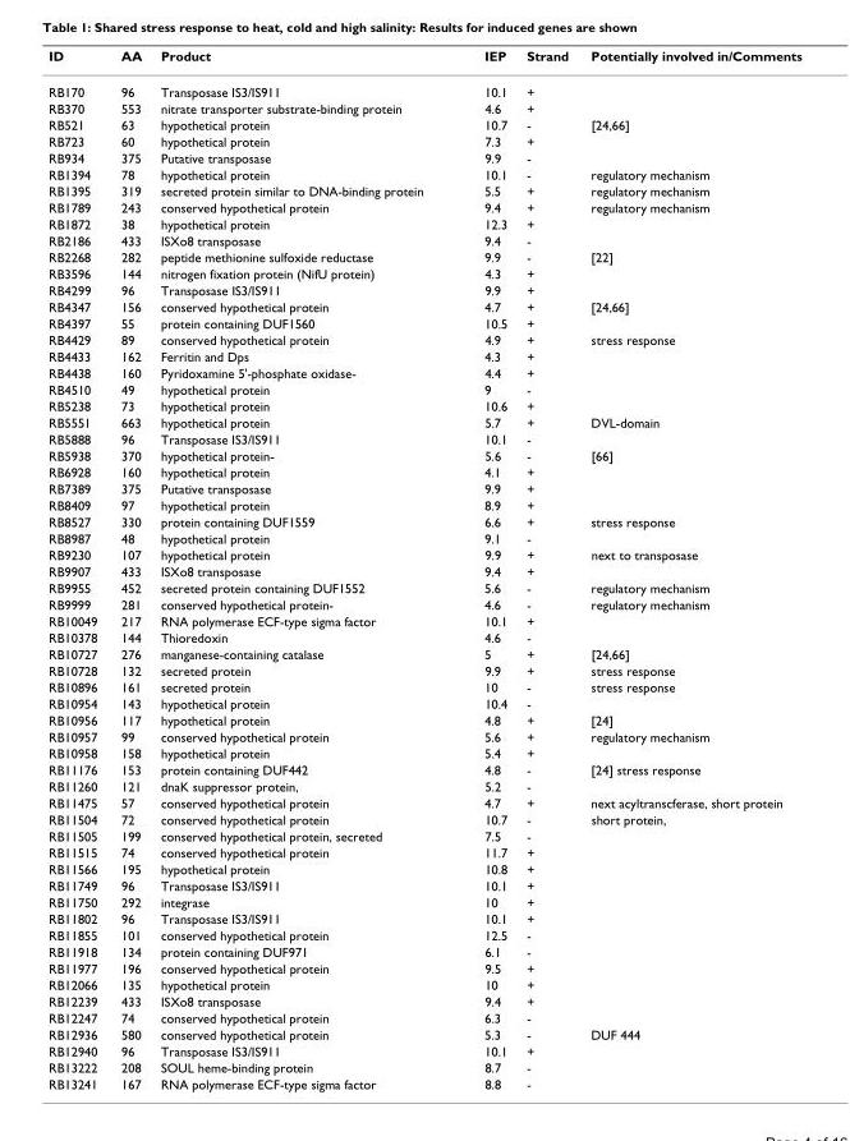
<table><thead><tr><td>ID</td><td>AA</td><td>Product</td><td>IEP</td><td>Strand</td><td>Potentially involved in/Comments</td></tr></thead><tbody><tr><td>RB170</td><td>96</td><td>Transposase IS3/IS911</td><td>10.1</td><td>+</td><td></td></tr><tr><td>RB370</td><td>553</td><td>nitrate transporter substrate-binding protein</td><td>4.6</td><td>+</td><td></td></tr><tr><td>RB521</td><td>63</td><td>hypothetical protein</td><td>10.7</td><td>-</td><td>[24,66]</td></tr><tr><td>RB723</td><td>60</td><td>hypothetical protein</td><td>7.3</td><td>+</td><td></td></tr><tr><td>RB934</td><td>375</td><td>Putative transposase</td><td>9.9</td><td>-</td><td></td></tr><tr><td>RB1394</td><td>78</td><td>hypothetical protein</td><td>10.1</td><td>-</td><td>regulatory mechanism</td></tr><tr><td>RB1395</td><td>319</td><td>secreted protein similar to DNA-binding protein</td><td>5.5</td><td>+</td><td>regulatory mechanism</td></tr><tr><td>RB1789</td><td>243</td><td>conserved hypothetical protein</td><td>9.4</td><td>+</td><td>regulatory mechanism</td></tr><tr><td>RB1872</td><td>38</td><td>hypothetical protein</td><td>12.3</td><td>+</td><td></td></tr><tr><td>RB2186</td><td>433</td><td>ISXo8 transposase</td><td>9.4</td><td>-</td><td></td></tr><tr><td>RB2268</td><td>282</td><td>peptide methionine sulfoxide reductase</td><td>9.9</td><td>-</td><td>[22]</td></tr><tr><td>RB3596</td><td>144</td><td>nitrogen fixation protein (NifU protein)</td><td>4.3</td><td>+</td><td></td></tr><tr><td>RB4299</td><td>96</td><td>Transposase IS3/IS911</td><td>9.9</td><td>+</td><td></td></tr><tr><td>RB4347</td><td>156</td><td>conserved hypothetical protein</td><td>4.7</td><td>+</td><td>[24,66]</td></tr><tr><td>RB4397</td><td>55</td><td>protein containing DUF1560</td><td>10.5</td><td>+</td><td></td></tr><tr><td>RB4429</td><td>89</td><td>conserved hypothetical protein</td><td>4.9</td><td>+</td><td>stress response</td></tr><tr><td>RB4433</td><td>162</td><td>Ferritin and Dps</td><td>4.3</td><td>+</td><td></td></tr><tr><td>RB4438</td><td>160</td><td>Pyridoxamine 5&#x27;-phosphate oxidase-</td><td>4.4</td><td>+</td><td></td></tr><tr><td>RB4510</td><td>49</td><td>hypothetical protein</td><td>9</td><td>-</td><td></td></tr><tr><td>RB5238</td><td>73</td><td>hypothetical protein</td><td>10.6</td><td>+</td><td></td></tr><tr><td>RB5551</td><td>663</td><td>hypothetical protein</td><td>5.7</td><td>+</td><td>DVL-domain</td></tr><tr><td>RB5888</td><td>96</td><td>Transposase IS3/IS911</td><td>10.1</td><td>-</td><td></td></tr><tr><td>RB5938</td><td>370</td><td>hypothetical protein-</td><td>5.6</td><td>-</td><td>[66]</td></tr><tr><td>RB6928</td><td>160</td><td>hypothetical protein</td><td>4.1</td><td>+</td><td></td></tr><tr><td>RB7389</td><td>375</td><td>Putative transposase</td><td>9.9</td><td>+</td><td></td></tr><tr><td>RB8409</td><td>97</td><td>hypothetical protein</td><td>8.9</td><td>+</td><td></td></tr><tr><td>RB8527</td><td>330</td><td>protein containing DUF1559</td><td>6.6</td><td>+</td><td>stress response</td></tr><tr><td>RB8987</td><td>48</td><td>hypothetical protein</td><td>9.1</td><td>-</td><td></td></tr><tr><td>RB9230</td><td>107</td><td>hypothetical protein</td><td>9.9</td><td>+</td><td>next to transposase</td></tr><tr><td>RB9907</td><td>433</td><td>ISXo8 transposase</td><td>9.4</td><td>+</td><td></td></tr><tr><td>RB9955</td><td>452</td><td>secreted protein containing DUF1552</td><td>5.6</td><td>-</td><td>regulatory mechanism</td></tr><tr><td>RB9999</td><td>281</td><td>conserved hypothetical protein-</td><td>4.6</td><td>-</td><td>regulatory mechanism</td></tr><tr><td>RB10049</td><td>217</td><td>RNA polymerase ECF-type sigma factor</td><td>10.1</td><td>+</td><td></td></tr><tr><td>RB10378</td><td>144</td><td>Thioredoxin</td><td>4.6</td><td>-</td><td></td></tr><tr><td>RB10727</td><td>276</td><td>manganese-containing catalase</td><td>5</td><td>+</td><td>[24,66]</td></tr><tr><td>RB10728</td><td>132</td><td>secreted protein</td><td>9.9</td><td>+</td><td>stress response</td></tr><tr><td>RB10896</td><td>161</td><td>secreted protein</td><td>10</td><td>-</td><td>stress response</td></tr><tr><td>RB10954</td><td>143</td><td>hypothetical protein</td><td>10.4</td><td>-</td><td></td></tr><tr><td>RB10956</td><td>117</td><td>hypothetical protein</td><td>4.8</td><td>+</td><td>[24]</td></tr><tr><td>RB10957</td><td>99</td><td>conserved hypothetical protein</td><td>5.6</td><td>+</td><td>regulatory mechanism</td></tr><tr><td>RB10958</td><td>158</td><td>hypothetical protein</td><td>5.4</td><td>+</td><td></td></tr><tr><td>RB11176</td><td>153</td><td>protein containing DUF442</td><td>4.8</td><td>-</td><td>[24] stress response</td></tr><tr><td>RB11260</td><td>121</td><td>dnaK suppressor protein,</td><td>5.2</td><td>-</td><td></td></tr><tr><td>RB11475</td><td>57</td><td>conserved hypothetical protein</td><td>4.7</td><td>+</td><td>next acyltranscferase, short protein</td></tr><tr><td>RB11504</td><td>72</td><td>conserved hypothetical protein</td><td>10.7</td><td>-</td><td>short protein,</td></tr><tr><td>RB11505</td><td>199</td><td>conserved hypothetical protein, secreted</td><td>7.5</td><td>-</td><td></td></tr><tr><td>RB11515</td><td>74</td><td>conserved hypothetical protein</td><td>11.7</td><td>+</td><td></td></tr><tr><td>RB11566</td><td>195</td><td>hypothetical protein</td><td>10.8</td><td>+</td><td></td></tr><tr><td>RB11749</td><td>96</td><td>Transposase IS3/IS911</td><td>10.1</td><td>+</td><td></td></tr><tr><td>RB11750</td><td>292</td><td>integrase</td><td>10</td><td>+</td><td></td></tr><tr><td>RB11802</td><td>96</td><td>Transposase IS3/IS911</td><td>10.1</td><td>+</td><td></td></tr><tr><td>RB11855</td><td>101</td><td>conserved hypothetical protein</td><td>12.5</td><td>-</td><td></td></tr><tr><td>RB11918</td><td>134</td><td>protein containing DUF971</td><td>6.1</td><td>-</td><td></td></tr><tr><td>RB11977</td><td>196</td><td>conserved hypothetical protein</td><td>9.5</td><td>+</td><td></td></tr><tr><td>RB12066</td><td>135</td><td>hypothetical protein</td><td>10</td><td>+</td><td></td></tr><tr><td>RB12239</td><td>433</td><td>ISXo8 transposase</td><td>9.4</td><td>+</td><td></td></tr><tr><td>RB12247</td><td>74</td><td>conserved hypothetical protein</td><td>6.3</td><td>-</td><td></td></tr><tr><td>RB12936</td><td>580</td><td>conserved hypothetical protein</td><td>5.3</td><td>-</td><td>DUF 444</td></tr><tr><td>RB12940</td><td>96</td><td>Transposase IS3/IS911</td><td>10.1</td><td>+</td><td></td></tr><tr><td>RB13222</td><td>208</td><td>SOUL heme-binding protein</td><td>8.7</td><td>-</td><td></td></tr><tr><td>RB13241</td><td>167</td><td>RNA polymerase ECF-type sigma factor</td><td>8.8</td><td>-</td><td></td></tr></tbody></table>